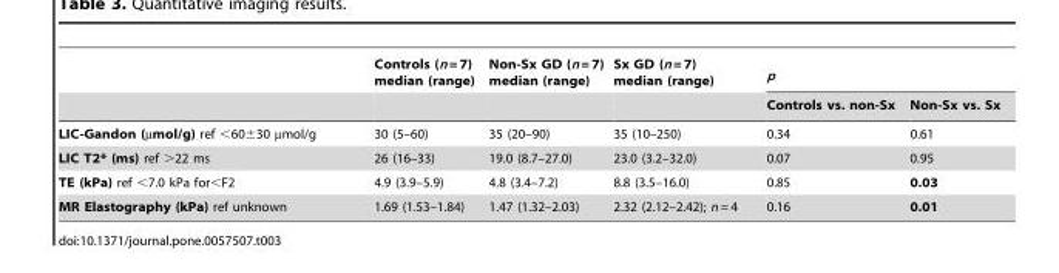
<table><thead><tr><td rowspan="2"></td><td rowspan="2">Controls (n = 7) median (range)</td><td rowspan="2">Non-Sx GD (n = 7) median (range)</td><td rowspan="2">Sx GD (n = 7) median (range)</td><td colspan="2">p</td></tr><tr><td>Controls vs. non-Sx</td><td>Non-Sx vs. Sx</td></tr></thead><tbody><tr><td>LIC-Gandon (µmol/g) ref &lt;60±30 µmol/g</td><td>30 (5–60)</td><td>35 (20–90)</td><td>35 (10–250)</td><td>0.34</td><td>0.61</td></tr><tr><td>LIC T2* (ms) ref &gt;22 ms</td><td>26 (16–33)</td><td>19.0 (8.7–27.0)</td><td>23.0 (3.2–32.0)</td><td>0.07</td><td>0.95</td></tr><tr><td>TE (kPa) ref &lt;7.0 kPa for&lt;F2</td><td>4.9 (3.9–5.9)</td><td>4.8 (3.4–7.2)</td><td>8.8 (3.5–16.0)</td><td>0.85</td><td>0.03</td></tr><tr><td>MR Elastography (kPa) ref unknown</td><td>1.69 (1.53–1.84)</td><td>1.47 (1.32–2.03)</td><td>2.32 (2.12–2.42); n = 4</td><td>0.16</td><td>0.01</td></tr></tbody></table>